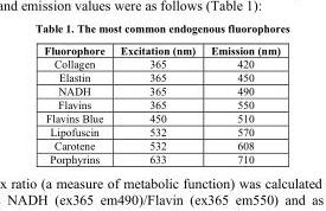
<table><thead><tr><td>Fluorophore</td><td>Excitation (nm)</td><td>Emission (nm)</td></tr></thead><tbody><tr><td>Collagen</td><td>365</td><td>420</td></tr><tr><td>Elastin</td><td>365</td><td>450</td></tr><tr><td>NADH</td><td>365</td><td>490</td></tr><tr><td>Flavins</td><td>365</td><td>550</td></tr><tr><td>Flavins Blue</td><td>450</td><td>510</td></tr><tr><td>Lipofuscin</td><td>532</td><td>570</td></tr><tr><td>Carotene</td><td>532</td><td>608</td></tr><tr><td>Porphyrins</td><td>633</td><td>710</td></tr></tbody></table>